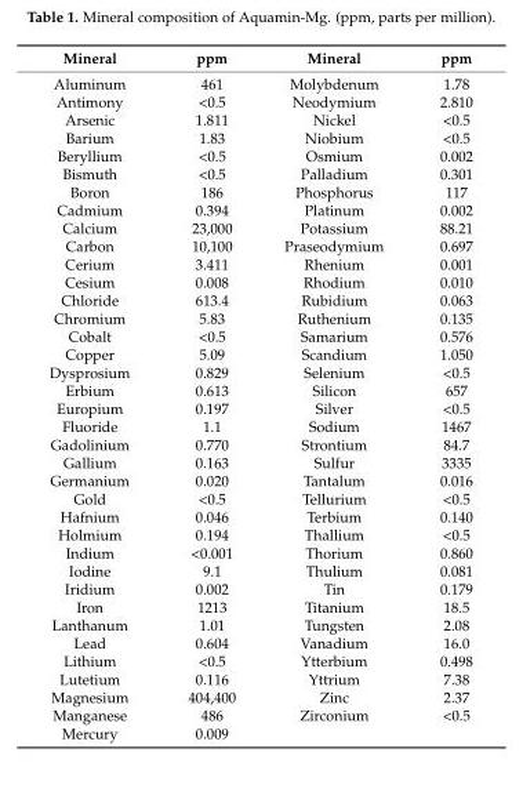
<table><thead><tr><td>Mineral</td><td>ppm</td><td>Mineral</td><td>ppm</td></tr></thead><tbody><tr><td>Aluminum</td><td>461</td><td>Molybdenum</td><td>1.78</td></tr><tr><td>Antimony</td><td>&lt;0.5</td><td>Neodymium</td><td>2.810</td></tr><tr><td>Arsenic</td><td>1.811</td><td>Nickel</td><td>&lt;0.5</td></tr><tr><td>Barium</td><td>1.83</td><td>Niobium</td><td>&lt;0.5</td></tr><tr><td>Beryllium</td><td>&lt;0.5</td><td>Osmium</td><td>0.002</td></tr><tr><td>Bismuth</td><td>&lt;0.5</td><td>Palladium</td><td>0.301</td></tr><tr><td>Boron</td><td>186</td><td>Phosphorus</td><td>117</td></tr><tr><td>Cadmium</td><td>0.394</td><td>Platinum</td><td>0.002</td></tr><tr><td>Calcium</td><td>23,000</td><td>Potassium</td><td>88.21</td></tr><tr><td>Carbon</td><td>10,100</td><td>Praseodymium</td><td>0.697</td></tr><tr><td>Cerium</td><td>3.411</td><td>Rhenium</td><td>0.001</td></tr><tr><td>Cesium</td><td>0.008</td><td>Rhodium</td><td>0.010</td></tr><tr><td>Chloride</td><td>613.4</td><td>Rubidium</td><td>0.063</td></tr><tr><td>Chromium</td><td>5.83</td><td>Ruthenium</td><td>0.135</td></tr><tr><td>Cobalt</td><td>&lt;0.5</td><td>Samarium</td><td>0.576</td></tr><tr><td>Copper</td><td>5.09</td><td>Scandium</td><td>1.050</td></tr><tr><td>Dysprosium</td><td>0.829</td><td>Selenium</td><td>&lt;0.5</td></tr><tr><td>Erbium</td><td>0.613</td><td>Silicon</td><td>657</td></tr><tr><td>Europium</td><td>0.197</td><td>Silver</td><td>&lt;0.5</td></tr><tr><td>Fluoride</td><td>1.1</td><td>Sodium</td><td>1467</td></tr><tr><td>Gadolinium</td><td>0.770</td><td>Strontium</td><td>84.7</td></tr><tr><td>Gallium</td><td>0.163</td><td>Sulfur</td><td>3335</td></tr><tr><td>Germanium</td><td>0.020</td><td>Tantalum</td><td>0.016</td></tr><tr><td>Gold</td><td>&lt;0.5</td><td>Tellurium</td><td>&lt;0.5</td></tr><tr><td>Hafnium</td><td>0.046</td><td>Terbium</td><td>0.140</td></tr><tr><td>Holmium</td><td>0.194</td><td>Thallium</td><td>&lt;0.5</td></tr><tr><td>Indium</td><td>&lt;0.001</td><td>Thorium</td><td>0.860</td></tr><tr><td>Iodine</td><td>9.1</td><td>Thulium</td><td>0.081</td></tr><tr><td>Iridium</td><td>0.002</td><td>Tin</td><td>0.179</td></tr><tr><td>Iron</td><td>1213</td><td>Titanium</td><td>18.5</td></tr><tr><td>Lanthanum</td><td>1.01</td><td>Tungsten</td><td>2.08</td></tr><tr><td>Lead</td><td>0.604</td><td>Vanadium</td><td>16.0</td></tr><tr><td>Lithium</td><td>&lt;0.5</td><td>Ytterbium</td><td>0.498</td></tr><tr><td>Lutetium</td><td>0.116</td><td>Yttrium</td><td>7.38</td></tr><tr><td>Magnesium</td><td>404,400</td><td>Zinc</td><td>2.37</td></tr><tr><td>Manganese</td><td>486</td><td>Zirconium</td><td>&lt;0.5</td></tr><tr><td>Mercury</td><td>0.009</td><td></td><td></td></tr></tbody></table>